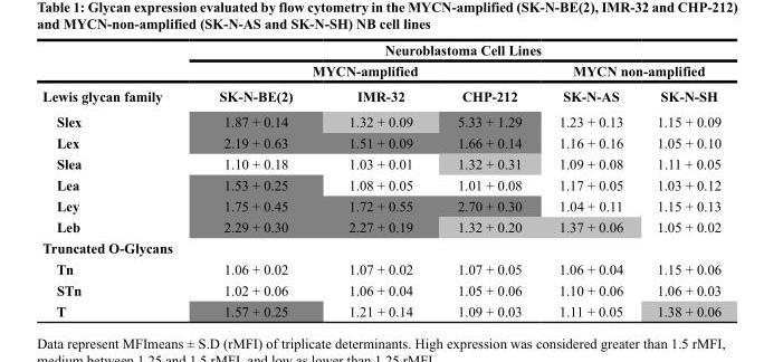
<table><thead><tr><td rowspan="3">Lewis glycan family</td><td colspan="5">Neuroblastoma Cell Lines</td></tr><tr><td colspan="3">MYCN-amplified</td><td colspan="2">MYCN non-amplified</td></tr><tr><td>SK-N-BE(2)</td><td>IMR-32</td><td>CHP-212</td><td>SK-N-AS</td><td>SK-N-SH</td></tr></thead><tbody><tr><td>Slex</td><td>1.87 + 0.14</td><td>1.32 + 0.09</td><td>5.33 + 1.29</td><td>1.23 + 0.13</td><td>1.15 + 0.09</td></tr><tr><td>Lex</td><td>2.19 + 0.63</td><td>1.51 + 0.09</td><td>1.66 + 0.14</td><td>1.16 + 0.16</td><td>1.05 + 0.10</td></tr><tr><td>Slea</td><td>1.10 + 0.18</td><td>1.03 + 0.01</td><td>1.32 + 0.31</td><td>1.09 + 0.08</td><td>1.11 + 0.05</td></tr><tr><td>Lea</td><td>1.53 + 0.25</td><td>1.08 + 0.05</td><td>1.01 + 0.08</td><td>1.17 + 0.05</td><td>1.03 + 0.12</td></tr><tr><td>Ley</td><td>1.75 + 0.45</td><td>1.72 + 0.55</td><td>2.70 + 0.30</td><td>1.04 + 0.11</td><td>1.15 + 0.13</td></tr><tr><td>Leb</td><td>2.29 + 0.30</td><td>2.27 + 0.19</td><td>1.32 + 0.20</td><td>1.37 + 0.06</td><td>1.05 + 0.02</td></tr><tr><td colspan="6">Truncated O-Glycans</td></tr><tr><td>Tn</td><td>1.06 + 0.02</td><td>1.07 + 0.02</td><td>1.07 + 0.05</td><td>1.06 + 0.04</td><td>1.15 + 0.06</td></tr><tr><td>STn</td><td>1.02 + 0.06</td><td>1.06 + 0.04</td><td>1.05 + 0.06</td><td>1.10 + 0.06</td><td>1.06 + 0.03</td></tr><tr><td>T</td><td>1.57 + 0.25</td><td>1.21 + 0.14</td><td>1.09 + 0.03</td><td>1.11 + 0.05</td><td>1.38 + 0.06</td></tr></tbody></table>